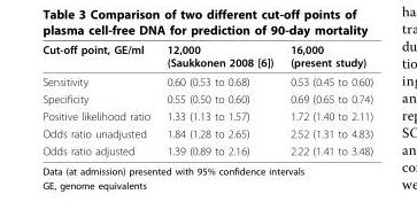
<table><thead><tr><td>Cut-off point, GE/ml</td><td>12,000 (Saukkonen 2008 [6])</td><td>16,000 (present study)</td></tr></thead><tbody><tr><td>Sensitivity</td><td>0.60 (0.53 to 0.68)</td><td>0.53 (0.45 to 0.60)</td></tr><tr><td>Specificity</td><td>0.55 (0.50 to 0.60)</td><td>0.69 (0.65 to 0.74)</td></tr><tr><td>Positive likelihood ratio</td><td>1.33 (1.13 to 1.57)</td><td>1.72 (1.40 to 2.11)</td></tr><tr><td>Odds ratio unadjusted</td><td>1.84 (1.28 to 2.65)</td><td>2.52 (1.31 to 4.83)</td></tr><tr><td>Odds ratio adjusted</td><td>1.39 (0.89 to 2.16)</td><td>2.22 (1.41 to 3.48)</td></tr></tbody></table>